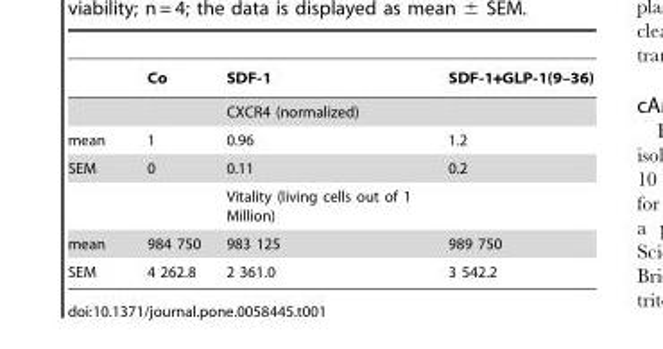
<table><thead><tr><td></td><td>Co</td><td>SDF-1</td><td>SDF-1+GLP-1(9–36)</td></tr></thead><tbody><tr><td></td><td></td><td>CXCR4 (normalized)</td><td></td></tr><tr><td>mean</td><td>1</td><td>0.96</td><td>1.2</td></tr><tr><td rowspan="2">SEM</td><td>0</td><td>0.11</td><td>0.2</td></tr><tr><td></td><td>Vitality (living cells out of 1 Million)</td><td></td></tr><tr><td>mean</td><td>984 750</td><td>983 125</td><td>989 750</td></tr><tr><td>SEM</td><td>4 262.8</td><td>2 361.0</td><td>3 542.2</td></tr></tbody></table>